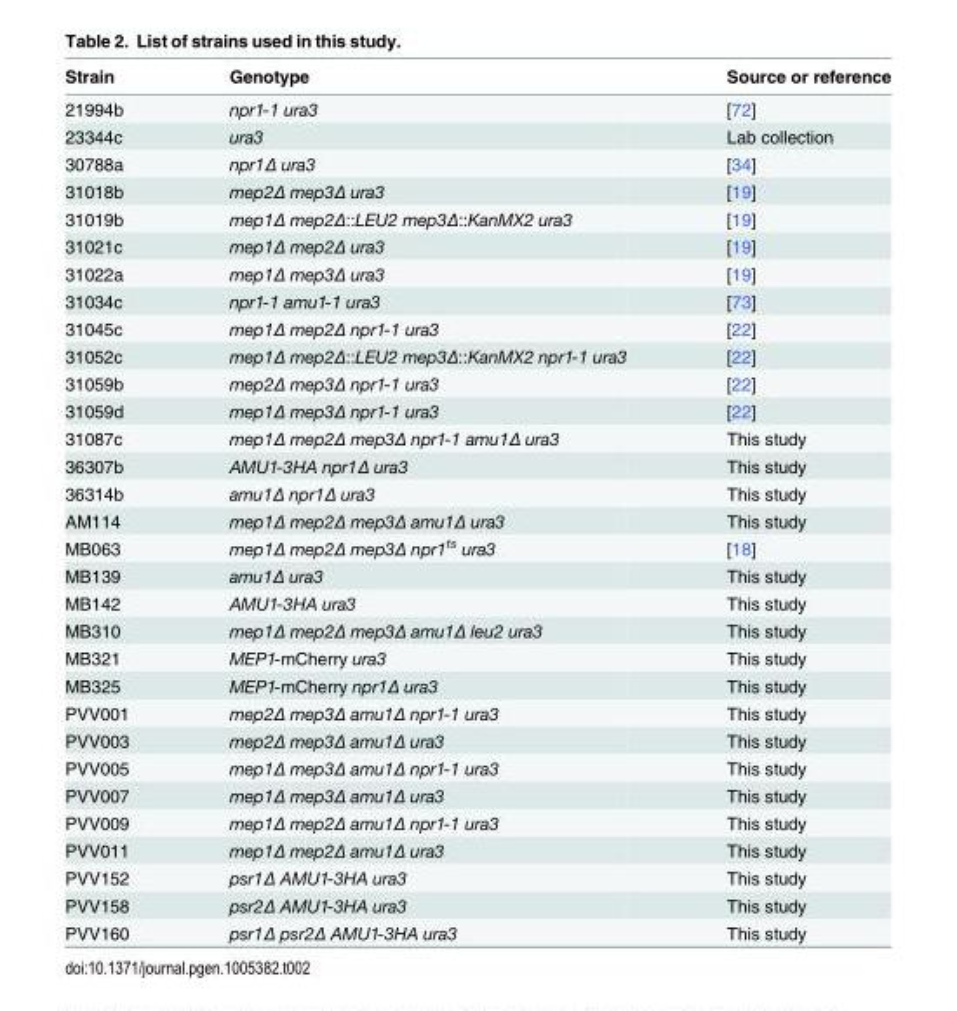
<table><thead><tr><td>Strain</td><td>Genotype</td><td>Source or reference</td></tr></thead><tbody><tr><td>21994b</td><td>npr1-1 ura3</td><td>[72]</td></tr><tr><td>23344c</td><td>ura3</td><td>Lab collection</td></tr><tr><td>30788a</td><td>npr1Δ ura3</td><td>[34]</td></tr><tr><td>31018b</td><td>mep2Δ mep3Δ ura3</td><td>[19]</td></tr><tr><td>31019b</td><td>mep1Δ mep2Δ::LEU2 mep3Δ::KanMX2 ura3</td><td>[19]</td></tr><tr><td>31021c</td><td>mep1Δ mep2Δ ura3</td><td>[19]</td></tr><tr><td>31022a</td><td>mep1Δ mep3Δ ura3</td><td>[19]</td></tr><tr><td>31034c</td><td>npr1-1 amu1-1 ura3</td><td>[73]</td></tr><tr><td>31045c</td><td>mep1Δ mep2Δ npr1-1 ura3</td><td>[22]</td></tr><tr><td>31052c</td><td>mep1Δ mep2Δ::LEU2 mep3Δ::KanMX2 npr1-1 ura3</td><td>[22]</td></tr><tr><td>31059b</td><td>mep2Δ mep3Δ npr1-1 ura3</td><td>[22]</td></tr><tr><td>31059d</td><td>mep1Δ mep3Δ npr1-1 ura3</td><td>[22]</td></tr><tr><td>31087c</td><td>mep1Δ mep2Δ mep3Δ npr1-1 amu1Δ ura3</td><td>This study</td></tr><tr><td>36307b</td><td>AMU1-3HA npr1Δ ura3</td><td>This study</td></tr><tr><td>36314b</td><td>amu1Δ npr1Δ ura3</td><td>This study</td></tr><tr><td>AM114</td><td>mep1Δ mep2Δ mep3Δ amu1Δ ura3</td><td>This study</td></tr><tr><td>MB063</td><td>mep1Δ mep2Δ mep3Δ npr1<sup>ts</sup> ura3</td><td>[18]</td></tr><tr><td>MB139</td><td>amu1Δ ura3</td><td>This study</td></tr><tr><td>MB142</td><td>AMU1-3HA ura3</td><td>This study</td></tr><tr><td>MB310</td><td>mep1Δ mep2Δ mep3Δ amu1Δ leu2 ura3</td><td>This study</td></tr><tr><td>MB321</td><td>MEP1-mCherry ura3</td><td>This study</td></tr><tr><td>MB325</td><td>MEP1-mCherry npr1Δ ura3</td><td>This study</td></tr><tr><td>PVV001</td><td>mep2Δ mep3Δ amu1Δ npr1-1 ura3</td><td>This study</td></tr><tr><td>PVV003</td><td>mep2Δ mep3Δ amu1Δ ura3</td><td>This study</td></tr><tr><td>PVV005</td><td>mep1Δ mep3Δ amu1Δ npr1-1 ura3</td><td>This study</td></tr><tr><td>PVV007</td><td>mep1Δ mep3Δ amu1Δ ura3</td><td>This study</td></tr><tr><td>PVV009</td><td>mep1Δ mep2Δ amu1Δ npr1-1 ura3</td><td>This study</td></tr><tr><td>PVV011</td><td>mep1Δ mep2Δ amu1Δ ura3</td><td>This study</td></tr><tr><td>PVV152</td><td>psr1Δ AMU1-3HA ura3</td><td>This study</td></tr><tr><td>PVV158</td><td>psr2Δ AMU1-3HA ura3</td><td>This study</td></tr><tr><td>PVV160</td><td>psr1Δ psr2Δ AMU1-3HA ura3</td><td>This study</td></tr></tbody></table>